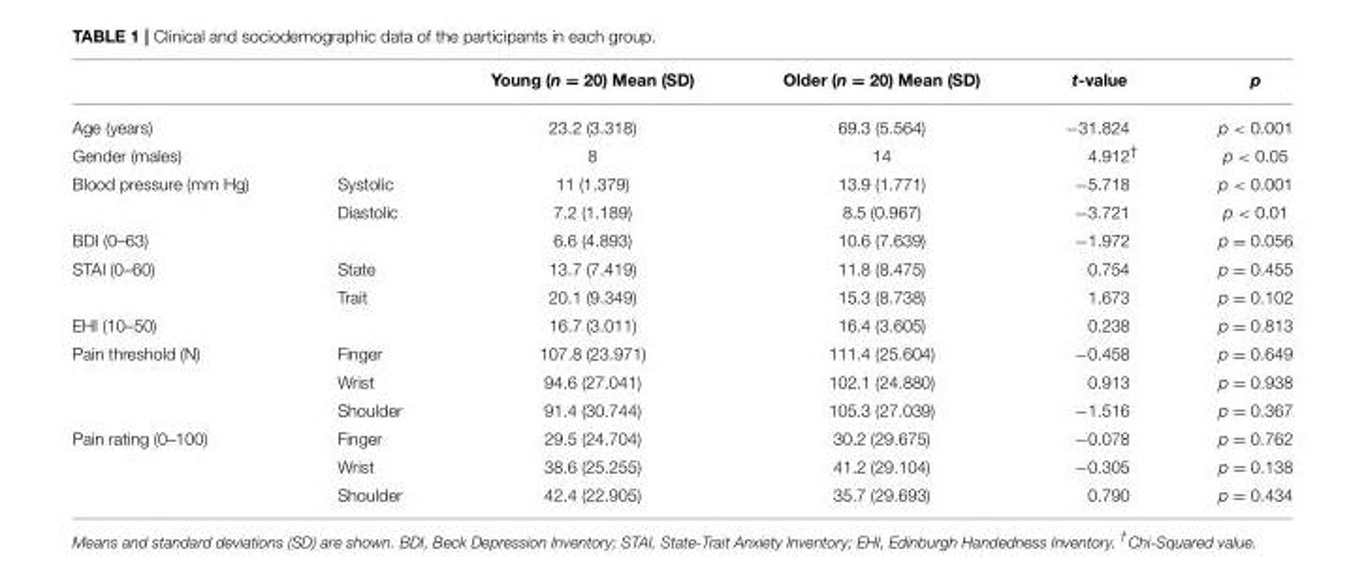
<table><thead><tr><td></td><td></td><td>Young (n = 20) Mean (SD)</td><td>Older (n = 20) Mean (SD)</td><td>t-value</td><td>p</td></tr></thead><tbody><tr><td>Age (years)</td><td></td><td>23.2 (3.318)</td><td>69.3 (5.564)</td><td>−31.824</td><td>p &lt; 0.001</td></tr><tr><td>Gender (males)</td><td></td><td>8</td><td>14</td><td>4.912<sup>†</sup></td><td>p &lt; 0.05</td></tr><tr><td rowspan="2">Blood pressure (mm Hg)</td><td>Systolic</td><td>11 (1.379)</td><td>13.9 (1.771)</td><td>−5.718</td><td>p &lt; 0.001</td></tr><tr><td>Diastolic</td><td>7.2 (1.189)</td><td>8.5 (0.967)</td><td>−3.721</td><td>p &lt; 0.01</td></tr><tr><td>BDI (0–63)</td><td></td><td>6.6 (4.893)</td><td>10.6 (7.639)</td><td>−1.972</td><td>p = 0.056</td></tr><tr><td rowspan="2">STAI (0–60)</td><td>State</td><td>13.7 (7.419)</td><td>11.8 (8.475)</td><td>0.754</td><td>p = 0.455</td></tr><tr><td>Trait</td><td>20.1 (9.349)</td><td>15.3 (8.738)</td><td>1.673</td><td>p = 0.102</td></tr><tr><td>EHI (10–50)</td><td></td><td>16.7 (3.011)</td><td>16.4 (3.605)</td><td>0.238</td><td>p = 0.813</td></tr><tr><td rowspan="3">Pain threshold (N)</td><td>Finger</td><td>107.8 (23.971)</td><td>111.4 (25.604)</td><td>−0.458</td><td>p = 0.649</td></tr><tr><td>Wrist</td><td>94.6 (27.041)</td><td>102.1 (24.880)</td><td>0.913</td><td>p = 0.938</td></tr><tr><td>Shoulder</td><td>91.4 (30.744)</td><td>105.3 (27.039)</td><td>−1.516</td><td>p = 0.367</td></tr><tr><td rowspan="3">Pain rating (0–100)</td><td>Finger</td><td>29.5 (24.704)</td><td>30.2 (29.675)</td><td>−0.078</td><td>p = 0.762</td></tr><tr><td>Wrist</td><td>38.6 (25.255)</td><td>41.2 (29.104)</td><td>−0.305</td><td>p = 0.138</td></tr><tr><td>Shoulder</td><td>42.4 (22.905)</td><td>35.7 (29.693)</td><td>0.790</td><td>p = 0.434</td></tr></tbody></table>